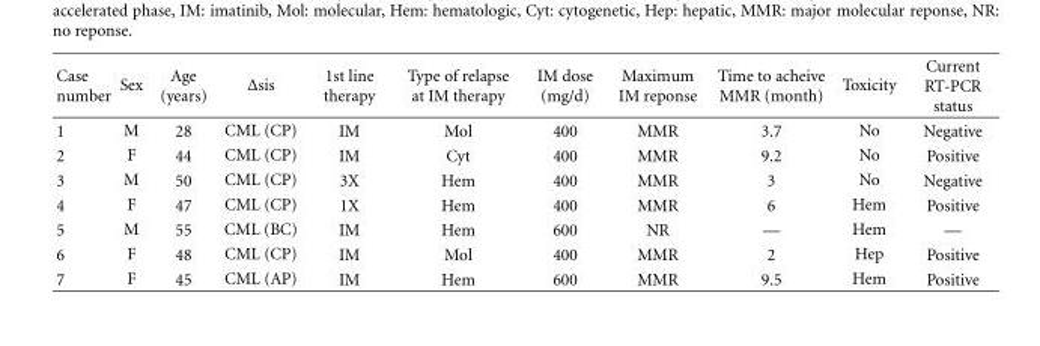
<table><thead><tr><td>Case number</td><td>Sex</td><td>Age (years)</td><td>Δsis</td><td>1st line therapy</td><td>Type of relapse at IM therapy</td><td>IM dose (mg/d)</td><td>Maximum IM reponse</td><td>Time to acheive MMR (month)</td><td>Toxicity</td><td>Current RT-PCR status</td></tr></thead><tbody><tr><td>1</td><td>M</td><td>28</td><td>CML (CP)</td><td>IM</td><td>Mol</td><td>400</td><td>MMR</td><td>3.7</td><td>No</td><td>Negative</td></tr><tr><td>2</td><td>F</td><td>44</td><td>CML (CP)</td><td>IM</td><td>Cyt</td><td>400</td><td>MMR</td><td>9.2</td><td>No</td><td>Positive</td></tr><tr><td>3</td><td>M</td><td>50</td><td>CML (CP)</td><td>3X</td><td>Hem</td><td>400</td><td>MMR</td><td>3</td><td>No</td><td>Negative</td></tr><tr><td>4</td><td>F</td><td>47</td><td>CML (CP)</td><td>1X</td><td>Hem</td><td>400</td><td>MMR</td><td>6</td><td>Hem</td><td>Positive</td></tr><tr><td>5</td><td>M</td><td>55</td><td>CML (BC)</td><td>IM</td><td>Hem</td><td>600</td><td>NR</td><td>—</td><td>Hem</td><td>—</td></tr><tr><td>6</td><td>F</td><td>48</td><td>CML (CP)</td><td>IM</td><td>Mol</td><td>400</td><td>MMR</td><td>2</td><td>Hep</td><td>Positive</td></tr><tr><td>7</td><td>F</td><td>45</td><td>CML (AP)</td><td>IM</td><td>Hem</td><td>600</td><td>MMR</td><td>9.5</td><td>Hem</td><td>Positive</td></tr></tbody></table>